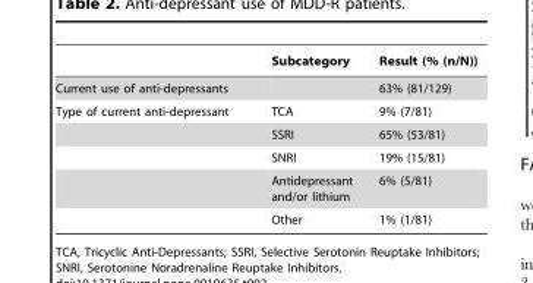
<table><thead><tr><td></td><td>Subcategory</td><td>Result (% (n/N))</td></tr></thead><tbody><tr><td>Current use of anti-depressants</td><td></td><td>63% (81/129)</td></tr><tr><td rowspan="5">Type of current anti-depressant</td><td>TCA</td><td>9% (7/81)</td></tr><tr><td>SSRI</td><td>65% (53/81)</td></tr><tr><td>SNRI</td><td>19% (15/81)</td></tr><tr><td>Antidepressant and/or lithium</td><td>6% (5/81)</td></tr><tr><td>Other</td><td>1% (1/81)</td></tr></tbody></table>